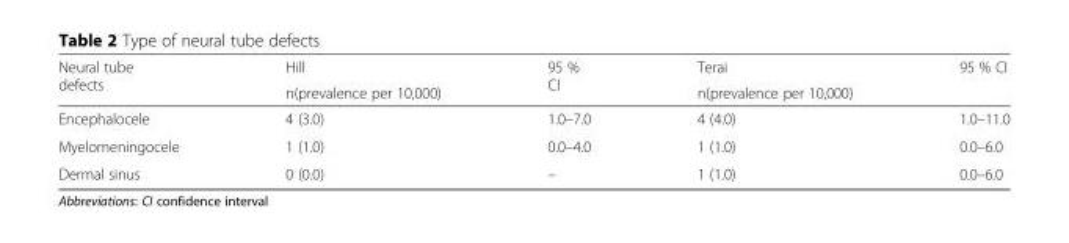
<table><thead><tr><td rowspan="2">Neural tube defects</td><td rowspan="2">Hill n(prevalence per 10,000)</td><td rowspan="2">95 % CI</td><td rowspan="2">Terai n(prevalence per 10,000)</td><td rowspan="2">95 % CI</td></tr><tr></tr></thead><tbody><tr><td>Encephalocele</td><td>4 (3.0)</td><td>1.0–7.0</td><td>4 (4.0)</td><td>1.0–11.0</td></tr><tr><td>Myelomeningocele</td><td>1 (1.0)</td><td>0.0–4.0</td><td>1 (1.0)</td><td>0.0–6.0</td></tr><tr><td>Dermal sinus</td><td>0 (0.0)</td><td>–</td><td>1 (1.0)</td><td>0.0–6.0</td></tr></tbody></table>